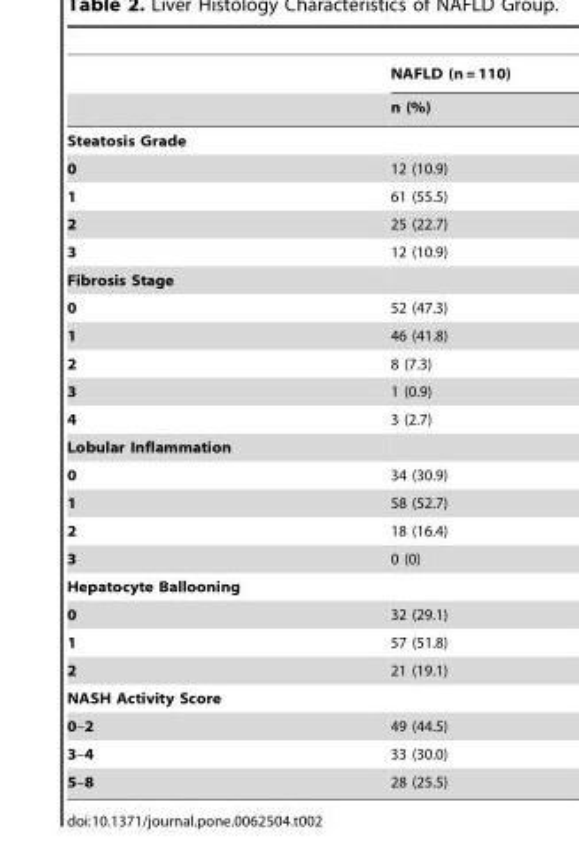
<table><thead><tr><td rowspan="2"></td><td rowspan="2">NAFLD (n = 110) n (%)</td></tr><tr></tr></thead><tbody><tr><td colspan="2">Steatosis Grade</td></tr><tr><td>0</td><td>12 (10.9)</td></tr><tr><td>1</td><td>61 (55.5)</td></tr><tr><td>2</td><td>25 (22.7)</td></tr><tr><td>3</td><td>12 (10.9)</td></tr><tr><td colspan="2">Fibrosis Stage</td></tr><tr><td>0</td><td>52 (47.3)</td></tr><tr><td>1</td><td>46 (41.8)</td></tr><tr><td>2</td><td>8 (7.3)</td></tr><tr><td>3</td><td>1 (0.9)</td></tr><tr><td>4</td><td>3 (2.7)</td></tr><tr><td colspan="2">Lobular Inflammation</td></tr><tr><td>0</td><td>34 (30.9)</td></tr><tr><td>1</td><td>58 (52.7)</td></tr><tr><td>2</td><td>18 (16.4)</td></tr><tr><td>3</td><td>0 (0)</td></tr><tr><td colspan="2">Hepatocyte Ballooning</td></tr><tr><td>0</td><td>32 (29.1)</td></tr><tr><td>1</td><td>57 (51.8)</td></tr><tr><td>2</td><td>21 (19.1)</td></tr><tr><td colspan="2">NASH Activity Score</td></tr><tr><td>0–2</td><td>49 (44.5)</td></tr><tr><td>3–4</td><td>33 (30.0)</td></tr><tr><td>5–8</td><td>28 (25.5)</td></tr></tbody></table>